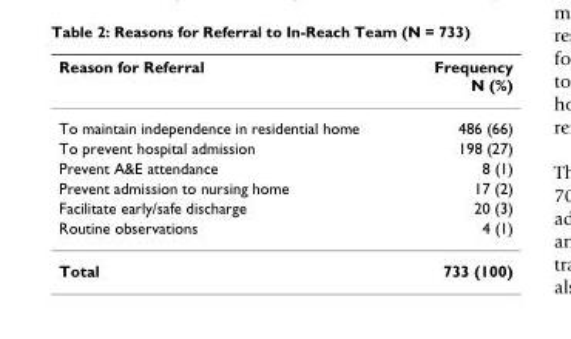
<table><thead><tr><td>Reason for Referral</td><td>Frequency N (%)</td></tr></thead><tbody><tr><td>To maintain independence in residential home</td><td>486 (66)</td></tr><tr><td>To prevent hospital admission</td><td>198 (27)</td></tr><tr><td>Prevent A&amp;E attendance</td><td>8 (1)</td></tr><tr><td>Prevent admission to nursing home</td><td>17 (2)</td></tr><tr><td>Facilitate early/safe discharge</td><td>20 (3)</td></tr><tr><td>Routine observations</td><td>4 (1)</td></tr><tr><td>Total</td><td>733 (100)</td></tr></tbody></table>